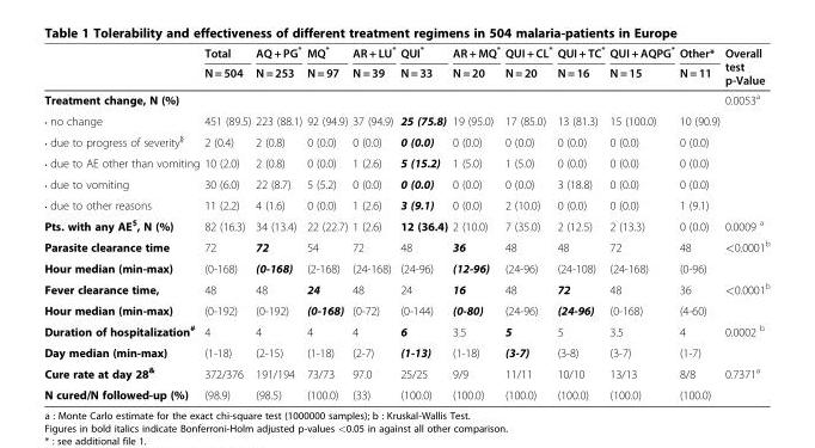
<table><thead><tr><td rowspan="2"></td><td rowspan="2">Total N = 504</td><td rowspan="2">AQ + PG* N = 253</td><td rowspan="2">MQ* N = 97</td><td rowspan="2">AR + LU* N = 39</td><td rowspan="2">QUI* N = 33</td><td rowspan="2">AR + MQ* N = 20</td><td rowspan="2">QUI + CL* N = 20</td><td rowspan="2">QUI + TC* N = 16</td><td rowspan="2">QUI + AQPG* N = 15</td><td rowspan="2">Other* N = 11</td><td rowspan="2">Overall test p-Value</td></tr><tr></tr></thead><tbody><tr><td>Treatment change, N (%)</td><td></td><td></td><td></td><td></td><td></td><td></td><td></td><td></td><td></td><td></td><td>0.0053<sup>a</sup></td></tr><tr><td>• no change</td><td>451 (89.5)</td><td>223 (88.1)</td><td>92 (94.9)</td><td>37 (94.9)</td><td>25 (75.8)</td><td>19 (95.0)</td><td>17 (85.0)</td><td>13 (81.3)</td><td>15 (100.0)</td><td>10 (90.9)</td><td></td></tr><tr><td>• due to progress of severity§</td><td>2 (0.4)</td><td>2 (0.8)</td><td>0 (0.0)</td><td>0 (0.0)</td><td>0 (0.0)</td><td>0 (0.0)</td><td>0 (0.0)</td><td>0 (0.0)</td><td>0 (0.0)</td><td>0 (0.0)</td><td></td></tr><tr><td>• due to AE other than vomiting</td><td>10 (2.0)</td><td>2 (0.8)</td><td>0 (0.0)</td><td>1 (2.6)</td><td>5 (15.2)</td><td>1 (5.0)</td><td>1 (5.0)</td><td>0 (0.0)</td><td>0 (0.0)</td><td>0 (0.0)</td><td></td></tr><tr><td>• due to vomiting</td><td>30 (6.0)</td><td>22 (8.7)</td><td>5 (5.2)</td><td>0 (0.0)</td><td>0 (0.0)</td><td>0 (0.0)</td><td>0 (0.0)</td><td>3 (18.8)</td><td>0 (0.0)</td><td>0 (0.0)</td><td></td></tr><tr><td>• due to other reasons</td><td>11 (2.2)</td><td>4 (1.6)</td><td>0 (0.0)</td><td>1 (2.6)</td><td>3 (9.1)</td><td>0 (0.0)</td><td>2 (10.0)</td><td>0 (0.0)</td><td>0 (0.0)</td><td>1 (9.1)</td><td></td></tr><tr><td>Pts. with any AE<sup>$</sup>, N (%)</td><td>82 (16.3)</td><td>34 (13.4)</td><td>22 (22.7)</td><td>1 (2.6)</td><td>12 (36.4)</td><td>2 (10.0)</td><td>7 (35.0)</td><td>2 (12.5)</td><td>2 (13.3)</td><td>0 (0.0)</td><td>0.0009 <sup>a</sup></td></tr><tr><td>Parasite clearance time</td><td>72</td><td>72</td><td>54</td><td>72</td><td>48</td><td>36</td><td>48</td><td>48</td><td>72</td><td>48</td><td rowspan="2">&lt;0.0001<sup>b</sup></td></tr><tr><td>Hour median (min-max)</td><td>(0-168)</td><td>(0-168)</td><td>(2-168)</td><td>(24-168)</td><td>(24-96)</td><td>(12-96)</td><td>(24-96)</td><td>(24-108)</td><td>(24-168)</td><td>(0-96)</td></tr><tr><td>Fever clearance time,</td><td>48</td><td>48</td><td>24</td><td>48</td><td>24</td><td>16</td><td>48</td><td>72</td><td>48</td><td>36</td><td rowspan="2">&lt;0.0001<sup>b</sup></td></tr><tr><td>Hour median (min-max)</td><td>(0-192)</td><td>(0-192)</td><td>(0-168)</td><td>(0-72)</td><td>(0-144)</td><td>(0-80)</td><td>(24-96)</td><td>(24-96)</td><td>(0-168)</td><td>(4-60)</td></tr><tr><td>Duration of hospitalization<sup>#</sup></td><td>4</td><td>4</td><td>4</td><td>4</td><td>6</td><td>3.5</td><td>5</td><td>5</td><td>3.5</td><td>4</td><td rowspan="2">0.0002 <sup>b</sup></td></tr><tr><td>Day median (min-max)</td><td>(1-18)</td><td>(2-15)</td><td>(1-18)</td><td>(2-7)</td><td>(1-13)</td><td>(1-18)</td><td>(3-7)</td><td>(3-8)</td><td>(3-7)</td><td>(1-7)</td></tr><tr><td>Cure rate at day 28<sup>&amp;</sup></td><td>372/376</td><td>191/194</td><td>73/73</td><td>97.0</td><td>25/25</td><td>9/9</td><td>11/11</td><td>10/10</td><td>13/13</td><td>8/8</td><td>0.7371<sup>a</sup></td></tr><tr><td>N cured/N followed-up (%)</td><td>(98.9)</td><td>(98.5)</td><td>(100.0)</td><td>(33)</td><td>(100.0)</td><td>(100.0)</td><td>(100.0)</td><td>(100.0)</td><td>(100.0)</td><td>(100.0)</td><td></td></tr></tbody></table>